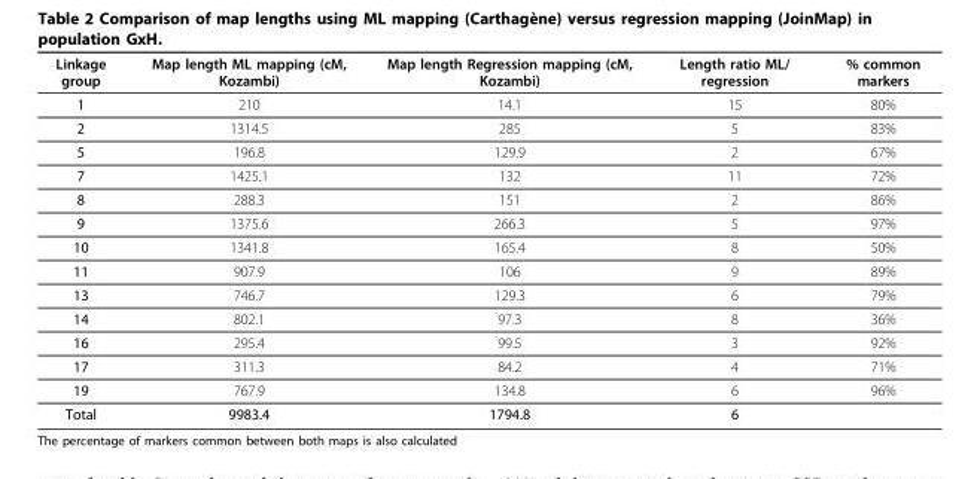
<table><thead><tr><td>Linkage group</td><td>Map length ML mapping (cM, Kozambi)</td><td>Map length Regression mapping (cM, Kozambi)</td><td>Length ratio ML/ regression</td><td>% common markers</td></tr></thead><tbody><tr><td>1</td><td>210</td><td>14.1</td><td>15</td><td>80%</td></tr><tr><td>2</td><td>1314.5</td><td>285</td><td>5</td><td>83%</td></tr><tr><td>5</td><td>196.8</td><td>129.9</td><td>2</td><td>67%</td></tr><tr><td>7</td><td>1425.1</td><td>132</td><td>11</td><td>72%</td></tr><tr><td>8</td><td>288.3</td><td>151</td><td>2</td><td>86%</td></tr><tr><td>9</td><td>1375.6</td><td>266.3</td><td>5</td><td>97%</td></tr><tr><td>10</td><td>1341.8</td><td>165.4</td><td>8</td><td>50%</td></tr><tr><td>11</td><td>907.9</td><td>106</td><td>9</td><td>89%</td></tr><tr><td>13</td><td>746.7</td><td>129.3</td><td>6</td><td>79%</td></tr><tr><td>14</td><td>802.1</td><td>97.3</td><td>8</td><td>36%</td></tr><tr><td>16</td><td>295.4</td><td>99.5</td><td>3</td><td>92%</td></tr><tr><td>17</td><td>311.3</td><td>84.2</td><td>4</td><td>71%</td></tr><tr><td>19</td><td>767.9</td><td>134.8</td><td>6</td><td>96%</td></tr><tr><td>Total</td><td>9983.4</td><td>1794.8</td><td>6</td><td></td></tr></tbody></table>